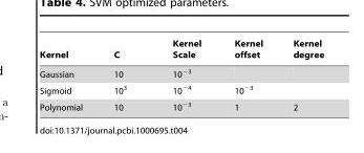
<table><thead><tr><td>Kernel</td><td>C</td><td>Kernel Scale</td><td>Kernel offset</td><td>Kernel degree</td></tr></thead><tbody><tr><td>Gaussian</td><td>10</td><td>10<sup>−3</sup></td><td></td><td></td></tr><tr><td>Sigmoid</td><td>10<sup>3</sup></td><td>10<sup>−4</sup></td><td>10<sup>−3</sup></td><td></td></tr><tr><td>Polynomial</td><td>10</td><td>10<sup>−3</sup></td><td>1</td><td>2</td></tr></tbody></table>